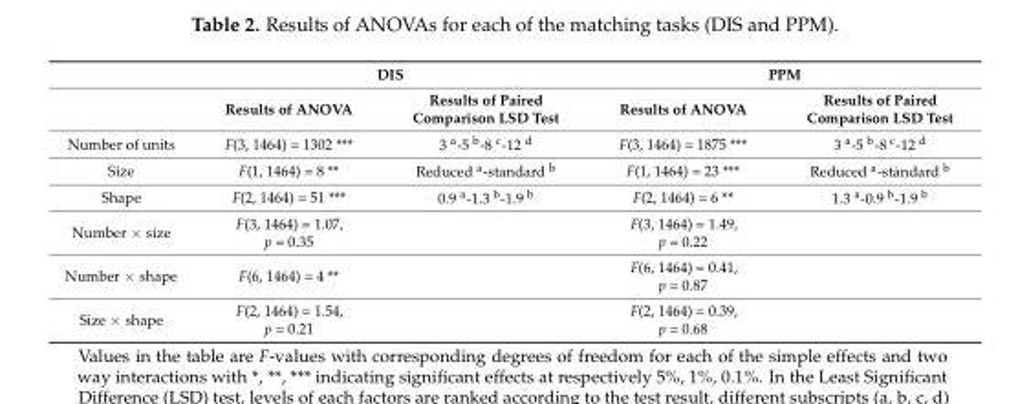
<table><thead><tr><td rowspan="2"></td><td colspan="2">DIS</td><td colspan="2">PPM</td></tr><tr><td>Results of ANOVA</td><td>Results of Paired Comparison LSD Test</td><td>Results of ANOVA</td><td>Results of Paired Comparison LSD Test</td></tr></thead><tbody><tr><td>Number of units</td><td>F(3, 1464) = 1302 ***</td><td>3 <sup>a</sup>-5 <sup>b</sup>-8 <sup>c</sup>-12 <sup>d</sup></td><td>F(3, 1464) = 1875 ***</td><td>3 <sup>a</sup>-5 <sup>b</sup>-8 <sup>c</sup>-12 <sup>d</sup></td></tr><tr><td>Size</td><td>F(1, 1464) = 8 **</td><td>Reduced <sup>a</sup>-standard <sup>b</sup></td><td>F(1, 1464) = 23 ***</td><td>Reduced <sup>a</sup>-standard <sup>b</sup></td></tr><tr><td>Shape</td><td>F(2, 1464) = 51 ***</td><td>0.9 <sup>a</sup>-1.3 <sup>b</sup>-1.9 <sup>b</sup></td><td>F(2, 1464) = 6 **</td><td>1.3 <sup>a</sup>-0.9 <sup>b</sup>-1.9 <sup>b</sup></td></tr><tr><td>Number × size</td><td>F(3, 1464) = 1.07, p = 0.35</td><td></td><td>F(3, 1464) = 1.49, p = 0.22</td><td></td></tr><tr><td>Number × shape</td><td>F(6, 1464) = 4 **</td><td></td><td>F(6, 1464) = 0.41, p = 0.87</td><td></td></tr><tr><td>Size × shape</td><td>F(2, 1464) = 1.54, p = 0.21</td><td></td><td>F(2, 1464) = 0.39, p = 0.68</td><td></td></tr></tbody></table>